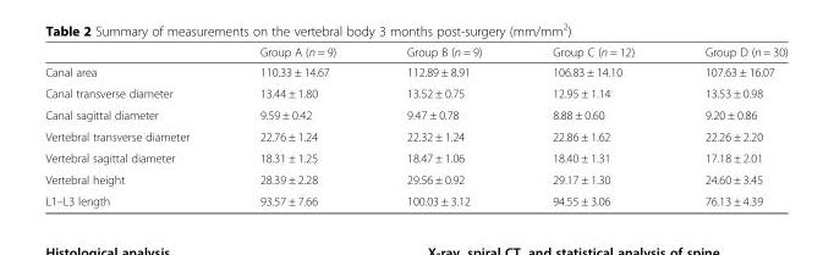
<table><thead><tr><td></td><td>Group A (n = 9)</td><td>Group B (n = 9)</td><td>Group C (n = 12)</td><td>Group D (n = 30)</td></tr></thead><tbody><tr><td>Canal area</td><td>110.33 ± 14.67</td><td>112.89 ± 8.91</td><td>106.83 ± 14.10</td><td>107.63 ± 16.07</td></tr><tr><td>Canal transverse diameter</td><td>13.44 ± 1.80</td><td>13.52 ± 0.75</td><td>12.95 ± 1.14</td><td>13.53 ± 0.98</td></tr><tr><td>Canal sagittal diameter</td><td>9.59 ± 0.42</td><td>9.47 ± 0.78</td><td>8.88 ± 0.60</td><td>9.20 ± 0.86</td></tr><tr><td>Vertebral transverse diameter</td><td>22.76 ± 1.24</td><td>22.32 ± 1.24</td><td>22.86 ± 1.62</td><td>22.26 ± 2.20</td></tr><tr><td>Vertebral sagittal diameter</td><td>18.31 ± 1.25</td><td>18.47 ± 1.06</td><td>18.40 ± 1.31</td><td>17.18 ± 2.01</td></tr><tr><td>Vertebral height</td><td>28.39 ± 2.28</td><td>29.56 ± 0.92</td><td>29.17 ± 1.30</td><td>24.60 ± 3.45</td></tr><tr><td>L1–L3 length</td><td>93.57 ± 7.66</td><td>100.03 ± 3.12</td><td>94.55 ± 3.06</td><td>76.13 ± 4.39</td></tr></tbody></table>